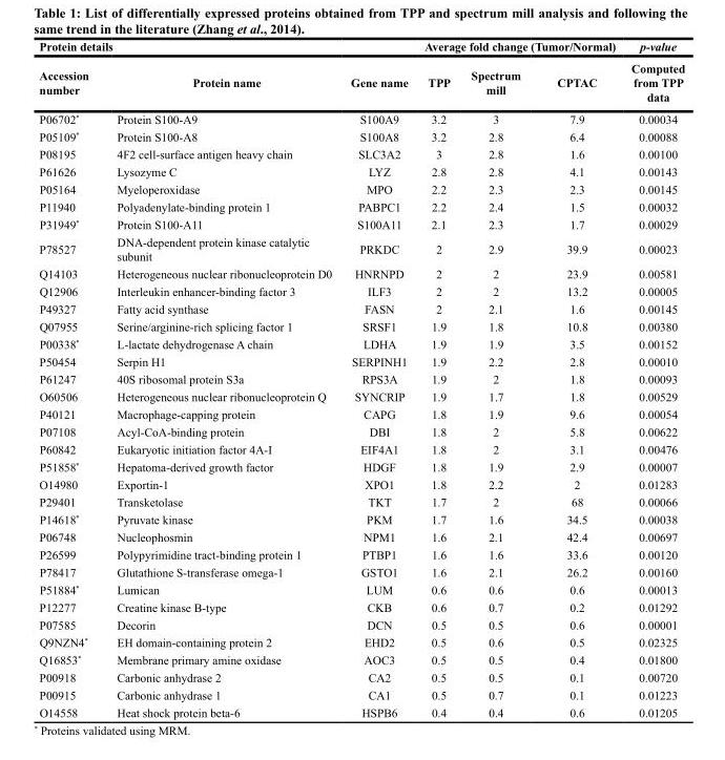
<table><thead><tr><td colspan="3">Protein details</td><td colspan="3">Average fold change (Tumor/Normal)</td><td rowspan="2">p-value Computed from TPP data</td></tr><tr><td>Accession number</td><td>Protein name</td><td>Gene name</td><td>TPP</td><td>Spectrum mill</td><td>CPTAC</td></tr></thead><tbody><tr><td>P06702*</td><td>Protein S100-A9</td><td>S100A9</td><td>3.2</td><td>3</td><td>7.9</td><td>0.00034</td></tr><tr><td>P05109*</td><td>Protein S100-A8</td><td>S100A8</td><td>3.2</td><td>2.8</td><td>6.4</td><td>0.00088</td></tr><tr><td>P08195</td><td>4F2 cell-surface antigen heavy chain</td><td>SLC3A2</td><td>3</td><td>2.8</td><td>1.6</td><td>0.00100</td></tr><tr><td>P61626</td><td>Lysozyme C</td><td>LYZ</td><td>2.8</td><td>2.8</td><td>4.1</td><td>0.00143</td></tr><tr><td>P05164</td><td>Myeloperoxidase</td><td>MPO</td><td>2.2</td><td>2.3</td><td>2.3</td><td>0.00145</td></tr><tr><td>P11940</td><td>Polyadenylate-binding protein 1</td><td>PABPC1</td><td>2.2</td><td>2.4</td><td>1.5</td><td>0.00032</td></tr><tr><td>P31949*</td><td>Protein S100-A11</td><td>S100A11</td><td>2.1</td><td>2.3</td><td>1.7</td><td>0.00029</td></tr><tr><td>P78527</td><td>DNA-dependent protein kinase catalytic subunit</td><td>PRKDC</td><td>2</td><td>2.9</td><td>39.9</td><td>0.00023</td></tr><tr><td>Q14103</td><td>Heterogeneous nuclear ribonucleoprotein D0</td><td>HNRNPD</td><td>2</td><td>2</td><td>23.9</td><td>0.00581</td></tr><tr><td>Q12906</td><td>Interleukin enhancer-binding factor 3</td><td>ILF3</td><td>2</td><td>2</td><td>13.2</td><td>0.00005</td></tr><tr><td>P49327</td><td>Fatty acid synthase</td><td>FASN</td><td>2</td><td>2.1</td><td>1.6</td><td>0.00145</td></tr><tr><td>Q07955</td><td>Serine/arginine-rich splicing factor 1</td><td>SRSF1</td><td>1.9</td><td>1.8</td><td>10.8</td><td>0.00380</td></tr><tr><td>P00338*</td><td>L-lactate dehydrogenase A chain</td><td>LDHA</td><td>1.9</td><td>1.9</td><td>3.5</td><td>0.00152</td></tr><tr><td>P50454</td><td>Serpin H1</td><td>SERPINH1</td><td>1.9</td><td>2.2</td><td>2.8</td><td>0.00010</td></tr><tr><td>P61247</td><td>40S ribosomal protein S3a</td><td>RPS3A</td><td>1.9</td><td>2</td><td>1.8</td><td>0.00093</td></tr><tr><td>O60506</td><td>Heterogeneous nuclear ribonucleoprotein Q</td><td>SYNCRIP</td><td>1.9</td><td>1.7</td><td>1.8</td><td>0.00529</td></tr><tr><td>P40121</td><td>Macrophage-capping protein</td><td>CAPG</td><td>1.8</td><td>1.9</td><td>9.6</td><td>0.00054</td></tr><tr><td>P07108</td><td>Acyl-CoA-binding protein</td><td>DBI</td><td>1.8</td><td>2</td><td>5.8</td><td>0.00622</td></tr><tr><td>P60842</td><td>Eukaryotic initiation factor 4A-I</td><td>EIF4A1</td><td>1.8</td><td>2</td><td>3.1</td><td>0.00476</td></tr><tr><td>P51858*</td><td>Hepatoma-derived growth factor</td><td>HDGF</td><td>1.8</td><td>1.9</td><td>2.9</td><td>0.00007</td></tr><tr><td>O14980</td><td>Exportin-1</td><td>XPO1</td><td>1.8</td><td>2.2</td><td>2</td><td>0.01283</td></tr><tr><td>P29401</td><td>Transketolase</td><td>TKT</td><td>1.7</td><td>2</td><td>68</td><td>0.00066</td></tr><tr><td>P14618*</td><td>Pyruvate kinase</td><td>PKM</td><td>1.7</td><td>1.6</td><td>34.5</td><td>0.00038</td></tr><tr><td>P06748</td><td>Nucleophosmin</td><td>NPM1</td><td>1.6</td><td>2.1</td><td>42.4</td><td>0.00697</td></tr><tr><td>P26599</td><td>Polypyrimidine tract-binding protein 1</td><td>PTBP1</td><td>1.6</td><td>1.6</td><td>33.6</td><td>0.00120</td></tr><tr><td>P78417</td><td>Glutathione S-transferase omega-1</td><td>GSTO1</td><td>1.6</td><td>2.1</td><td>26.2</td><td>0.00160</td></tr><tr><td>P51884*</td><td>Lumican</td><td>LUM</td><td>0.6</td><td>0.6</td><td>0.6</td><td>0.00013</td></tr><tr><td>P12277</td><td>Creatine kinase B-type</td><td>CKB</td><td>0.6</td><td>0.7</td><td>0.2</td><td>0.01292</td></tr><tr><td>P07585</td><td>Decorin</td><td>DCN</td><td>0.5</td><td>0.5</td><td>0.6</td><td>0.00001</td></tr><tr><td>Q9NZN4*</td><td>EH domain-containing protein 2</td><td>EHD2</td><td>0.5</td><td>0.6</td><td>0.5</td><td>0.02325</td></tr><tr><td>Q16853*</td><td>Membrane primary amine oxidase</td><td>AOC3</td><td>0.5</td><td>0.5</td><td>0.4</td><td>0.01800</td></tr><tr><td>P00918</td><td>Carbonic anhydrase 2</td><td>CA2</td><td>0.5</td><td>0.5</td><td>0.1</td><td>0.00720</td></tr><tr><td>P00915</td><td>Carbonic anhydrase 1</td><td>CA1</td><td>0.5</td><td>0.7</td><td>0.1</td><td>0.01223</td></tr><tr><td>O14558</td><td>Heat shock protein beta-6</td><td>HSPB6</td><td>0.4</td><td>0.4</td><td>0.6</td><td>0.01205</td></tr></tbody></table>